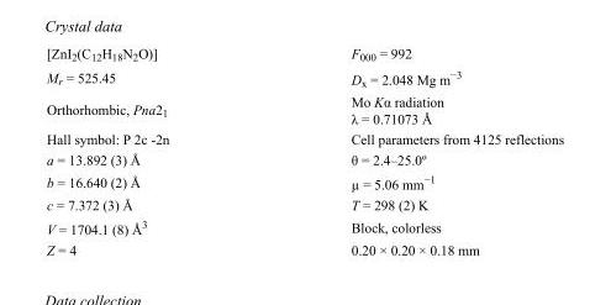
<table><tbody><tr><td>[ZnI<sub>2</sub>(C<sub>12</sub>H<sub>18</sub>N<sub>2</sub>O)]</td><td>F<sub>000</sub> = 992</td></tr><tr><td>M<sub>r</sub> = 525.45</td><td>D<sub>x</sub> = 2.048 Mg m<sup>−3</sup></td></tr><tr><td>Orthorhombic, Pna2<sub>1</sub></td><td>Mo Kα radiation λ = 0.71073 Å</td></tr><tr><td>Hall symbol: P 2c -2n</td><td>Cell parameters from 4125 reflections</td></tr><tr><td>a = 13.892 (3) Å</td><td>θ = 2.4–25.0º</td></tr><tr><td>b = 16.640 (2) Å</td><td>µ = 5.06 mm<sup>−1</sup></td></tr><tr><td>c = 7.372 (3) Å</td><td>T = 298 (2) K</td></tr><tr><td>V = 1704.1 (8) Å<sup>3</sup></td><td>Block, colorless</td></tr><tr><td>Z = 4</td><td>0.20 × 0.20 × 0.18 mm</td></tr></tbody></table>